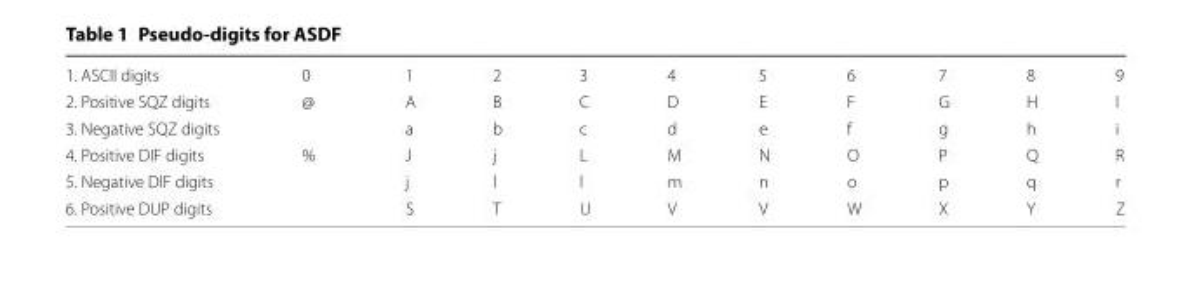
<table><tbody><tr><td>1. ASCII digits</td><td>0</td><td>1</td><td>2</td><td>3</td><td>4</td><td>5</td><td>6</td><td>7</td><td>8</td><td>9</td></tr><tr><td>2. Positive SQZ digits</td><td>@</td><td>A</td><td>B</td><td>C</td><td>D</td><td>E</td><td>F</td><td>G</td><td>H</td><td>I</td></tr><tr><td>3. Negative SQZ digits</td><td></td><td>a</td><td>b</td><td>c</td><td>d</td><td>e</td><td>f</td><td>g</td><td>h</td><td>i</td></tr><tr><td>4. Positive DIF digits</td><td>%</td><td>J</td><td>j</td><td>L</td><td>M</td><td>N</td><td>O</td><td>P</td><td>Q</td><td>R</td></tr><tr><td>5. Negative DIF digits</td><td></td><td>j</td><td>l</td><td>l</td><td>m</td><td>n</td><td>o</td><td>p</td><td>q</td><td>r</td></tr><tr><td>6. Positive DUP digits</td><td></td><td>S</td><td>T</td><td>U</td><td>V</td><td>V</td><td>W</td><td>X</td><td>Y</td><td>Z</td></tr></tbody></table>